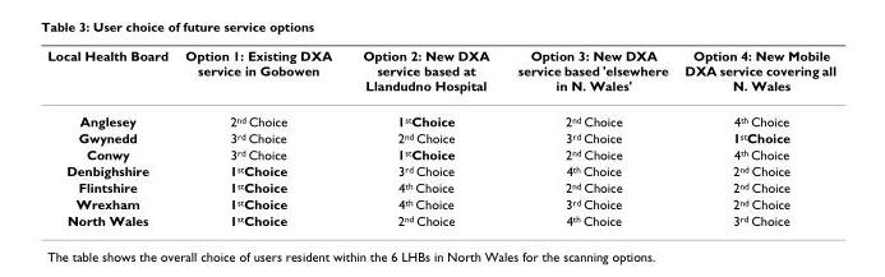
<table><thead><tr><td>Local Health Board</td><td>Option 1: Existing DXA service in Gobowen</td><td>Option 2: New DXA service based at Llandudno Hospital</td><td>Option 3: New DXA service based &#x27;elsewhere in N. Wales&#x27;</td><td>Option 4: New Mobile DXA service covering all N. Wales</td></tr></thead><tbody><tr><td>Anglesey</td><td>2<sup>nd</sup> Choice</td><td>1<sup>st</sup>Choice</td><td>2<sup>nd</sup> Choice</td><td>4<sup>th</sup> Choice</td></tr><tr><td>Gwynedd</td><td>3<sup>rd</sup> Choice</td><td>2<sup>nd</sup> Choice</td><td>3<sup>rd</sup> Choice</td><td>1<sup>st</sup>Choice</td></tr><tr><td>Conwy</td><td>3<sup>rd</sup> Choice</td><td>1<sup>st</sup>Choice</td><td>2<sup>nd</sup> Choice</td><td>4<sup>th</sup> Choice</td></tr><tr><td>Denbighshire</td><td>1<sup>st</sup>Choice</td><td>3<sup>rd</sup> Choice</td><td>4<sup>th</sup> Choice</td><td>2<sup>nd</sup> Choice</td></tr><tr><td>Flintshire</td><td>1<sup>st</sup>Choice</td><td>4<sup>th</sup> Choice</td><td>2<sup>nd</sup> Choice</td><td>2<sup>nd</sup> Choice</td></tr><tr><td>Wrexham</td><td>1<sup>st</sup>Choice</td><td>4<sup>th</sup> Choice</td><td>3<sup>rd</sup> Choice</td><td>2<sup>nd</sup> Choice</td></tr><tr><td>North Wales</td><td>1<sup>st</sup>Choice</td><td>2<sup>nd</sup> Choice</td><td>4<sup>th</sup> Choice</td><td>3<sup>rd</sup> Choice</td></tr></tbody></table>